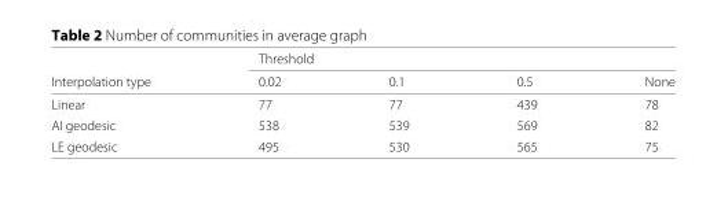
<table><thead><tr><td rowspan="2">Interpolation type</td><td colspan="4">Threshold</td></tr><tr><td>0.02</td><td>0.1</td><td>0.5</td><td>None</td></tr></thead><tbody><tr><td>Linear</td><td>77</td><td>77</td><td>439</td><td>78</td></tr><tr><td>AI geodesic</td><td>538</td><td>539</td><td>569</td><td>82</td></tr><tr><td>LE geodesic</td><td>495</td><td>530</td><td>565</td><td>75</td></tr></tbody></table>